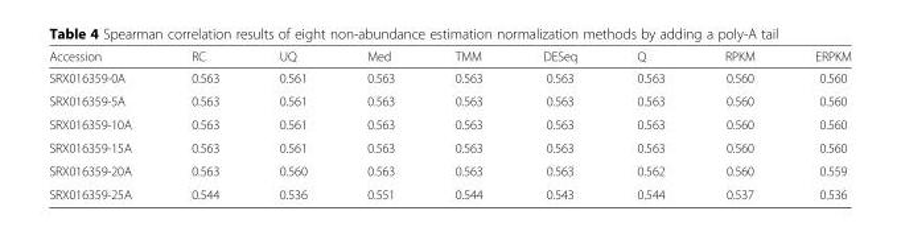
<table><thead><tr><td>Accession</td><td>RC</td><td>UQ</td><td>Med</td><td>TMM</td><td>DESeq</td><td>Q</td><td>RPKM</td><td>ERPKM</td></tr></thead><tbody><tr><td>SRX016359-0A</td><td>0.563</td><td>0.561</td><td>0.563</td><td>0.563</td><td>0.563</td><td>0.563</td><td>0.560</td><td>0.560</td></tr><tr><td>SRX016359-5A</td><td>0.563</td><td>0.561</td><td>0.563</td><td>0.563</td><td>0.563</td><td>0.563</td><td>0.560</td><td>0.560</td></tr><tr><td>SRX016359-10A</td><td>0.563</td><td>0.561</td><td>0.563</td><td>0.563</td><td>0.563</td><td>0.563</td><td>0.560</td><td>0.560</td></tr><tr><td>SRX016359-15A</td><td>0.563</td><td>0.561</td><td>0.563</td><td>0.563</td><td>0.563</td><td>0.563</td><td>0.560</td><td>0.560</td></tr><tr><td>SRX016359-20A</td><td>0.563</td><td>0.560</td><td>0.563</td><td>0.563</td><td>0.563</td><td>0.562</td><td>0.560</td><td>0.559</td></tr><tr><td>SRX016359-25A</td><td>0.544</td><td>0.536</td><td>0.551</td><td>0.544</td><td>0.543</td><td>0.544</td><td>0.537</td><td>0.536</td></tr></tbody></table>